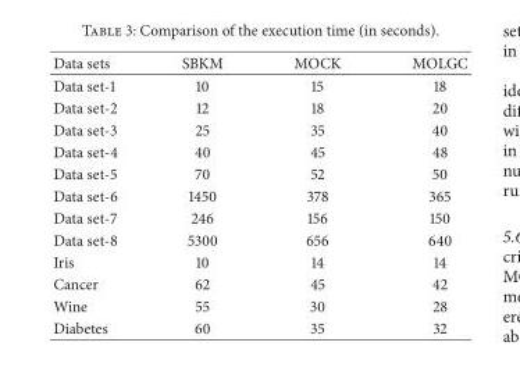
<table><thead><tr><td>Data sets</td><td>SBKM</td><td>MOCK</td><td>MOLGC</td></tr></thead><tbody><tr><td>Data set-1</td><td>10</td><td>15</td><td>18</td></tr><tr><td>Data set-2</td><td>12</td><td>18</td><td>20</td></tr><tr><td>Data set-3</td><td>25</td><td>35</td><td>40</td></tr><tr><td>Data set-4</td><td>40</td><td>45</td><td>48</td></tr><tr><td>Data set-5</td><td>70</td><td>52</td><td>50</td></tr><tr><td>Data set-6</td><td>1450</td><td>378</td><td>365</td></tr><tr><td>Data set-7</td><td>246</td><td>156</td><td>150</td></tr><tr><td>Data set-8</td><td>5300</td><td>656</td><td>640</td></tr><tr><td>Iris</td><td>10</td><td>14</td><td>14</td></tr><tr><td>Cancer</td><td>62</td><td>45</td><td>42</td></tr><tr><td>Wine</td><td>55</td><td>30</td><td>28</td></tr><tr><td>Diabetes</td><td>60</td><td>35</td><td>32</td></tr></tbody></table>